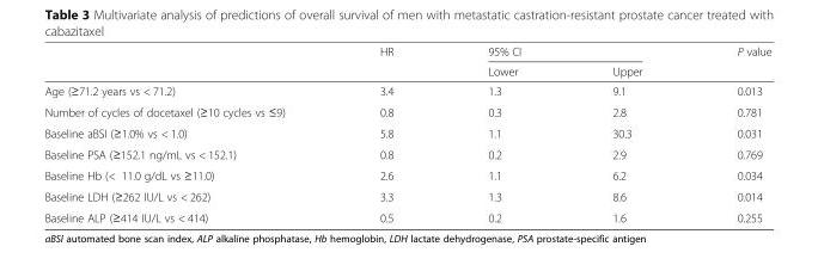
<table><thead><tr><td rowspan="2"></td><td rowspan="2">HR</td><td colspan="2">95% CI</td><td rowspan="2">P value</td></tr><tr><td>Lower</td><td>Upper</td></tr></thead><tbody><tr><td>Age (≥71.2 years vs &lt; 71.2)</td><td>3.4</td><td>1.3</td><td>9.1</td><td>0.013</td></tr><tr><td>Number of cycles of docetaxel (≥10 cycles vs ≤9)</td><td>0.8</td><td>0.3</td><td>2.8</td><td>0.781</td></tr><tr><td>Baseline aBSI (≥1.0% vs &lt; 1.0)</td><td>5.8</td><td>1.1</td><td>30.3</td><td>0.031</td></tr><tr><td>Baseline PSA (≥152.1 ng/mL vs &lt; 152.1)</td><td>0.8</td><td>0.2</td><td>2.9</td><td>0.769</td></tr><tr><td>Baseline Hb (&lt; 11.0 g/dL vs ≥11.0)</td><td>2.6</td><td>1.1</td><td>6.2</td><td>0.034</td></tr><tr><td>Baseline LDH (≥262 IU/L vs &lt; 262)</td><td>3.3</td><td>1.3</td><td>8.6</td><td>0.014</td></tr><tr><td>Baseline ALP (≥414 IU/L vs &lt; 414)</td><td>0.5</td><td>0.2</td><td>1.6</td><td>0.255</td></tr></tbody></table>